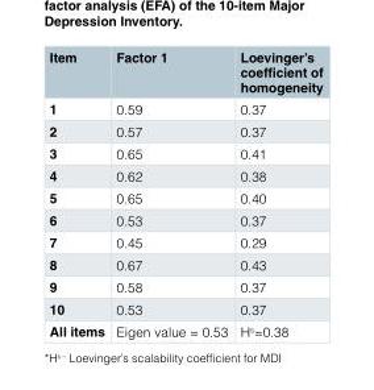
<table><thead><tr><td>Item</td><td>Factor 1</td><td>Loevinger’s coefficient of homogeneity</td></tr></thead><tbody><tr><td>1</td><td>0.59</td><td>0.37</td></tr><tr><td>2</td><td>0.57</td><td>0.37</td></tr><tr><td>3</td><td>0.65</td><td>0.41</td></tr><tr><td>4</td><td>0.62</td><td>0.38</td></tr><tr><td>5</td><td>0.65</td><td>0.40</td></tr><tr><td>6</td><td>0.53</td><td>0.37</td></tr><tr><td>7</td><td>0.45</td><td>0.29</td></tr><tr><td>8</td><td>0.67</td><td>0.43</td></tr><tr><td>9</td><td>0.58</td><td>0.37</td></tr><tr><td>10</td><td>0.53</td><td>0.37</td></tr><tr><td>All items</td><td>Eigen value = 0.53</td><td>H<sup>s</sup>=0.38</td></tr></tbody></table>